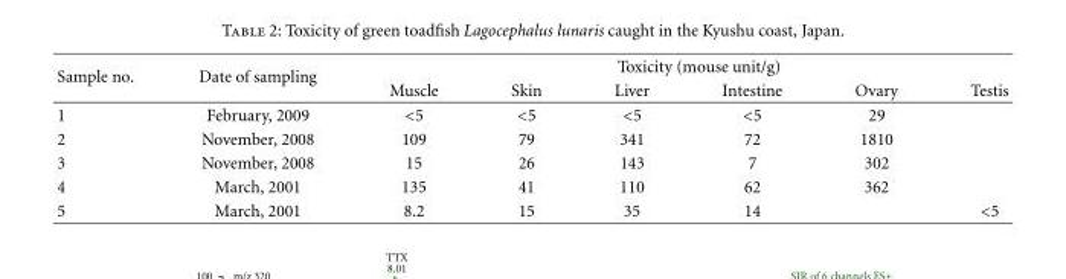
<table><thead><tr><td rowspan="2">Sample no.</td><td rowspan="2">Date of sampling</td><td colspan="6">Toxicity (mouse unit/g)</td></tr><tr><td>Muscle</td><td>Skin</td><td>Liver</td><td>Intestine</td><td>Ovary</td><td>Testis</td></tr></thead><tbody><tr><td>1</td><td>February, 2009</td><td>&lt;5</td><td>&lt;5</td><td>&lt;5</td><td>&lt;5</td><td>29</td><td></td></tr><tr><td>2</td><td>November, 2008</td><td>109</td><td>79</td><td>341</td><td>72</td><td>1810</td><td></td></tr><tr><td>3</td><td>November, 2008</td><td>15</td><td>26</td><td>143</td><td>7</td><td>302</td><td></td></tr><tr><td>4</td><td>March, 2001</td><td>135</td><td>41</td><td>110</td><td>62</td><td>362</td><td></td></tr><tr><td>5</td><td>March, 2001</td><td>8.2</td><td>15</td><td>35</td><td>14</td><td></td><td>&lt;5</td></tr></tbody></table>